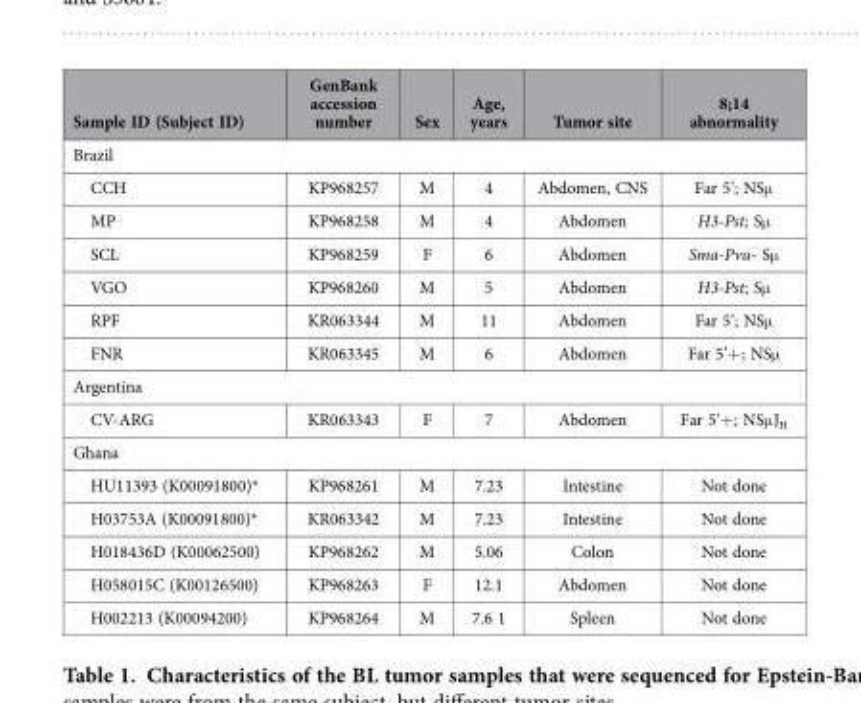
<table><thead><tr><td>Sample ID (Subject ID)</td><td>GenBank accession number</td><td>Sex</td><td>Age, years</td><td>Tumor site</td><td>8;14 abnormality</td></tr></thead><tbody><tr><td colspan="6">Brazil</td></tr><tr><td>CCH</td><td>KP968257</td><td>M</td><td>4</td><td>Abdomen, CNS</td><td>Far 5’; NSμ</td></tr><tr><td>MP</td><td>KP968258</td><td>M</td><td>4</td><td>Abdomen</td><td>H3-Pst; Sμ</td></tr><tr><td>SCL</td><td>KP968259</td><td>F</td><td>6</td><td>Abdomen</td><td>Sma-Pvu- Sμ</td></tr><tr><td>VGO</td><td>KP968260</td><td>M</td><td>5</td><td>Abdomen</td><td>H3-Pst; Sμ</td></tr><tr><td>RPF</td><td>KR063344</td><td>M</td><td>11</td><td>Abdomen</td><td>Far 5’; NSμ</td></tr><tr><td>FNR</td><td>KR063345</td><td>M</td><td>6</td><td>Abdomen</td><td>Far 5’+ ; NSμ</td></tr><tr><td colspan="6">Argentina</td></tr><tr><td>CV-ARG</td><td>KR063343</td><td>F</td><td>7</td><td>Abdomen</td><td>Far 5’+ ; NSμ J<sub>H</sub></td></tr><tr><td colspan="6">Ghana</td></tr><tr><td>HU11393 (K00091800)*</td><td>KP968261</td><td>M</td><td>7.23</td><td>Intestine</td><td>Not done</td></tr><tr><td>H03753A (K00091800)*</td><td>KR063342</td><td>M</td><td>7.23</td><td>Intestine</td><td>Not done</td></tr><tr><td>H018436D (K00062500)</td><td>KP968262</td><td>M</td><td>5.06</td><td>Colon</td><td>Not done</td></tr><tr><td>H058015C (K00126500)</td><td>KP968263</td><td>F</td><td>12.1</td><td>Abdomen</td><td>Not done</td></tr><tr><td>H002213 (K00094200)</td><td>KP968264</td><td>M</td><td>7.6 1</td><td>Spleen</td><td>Not done</td></tr></tbody></table>